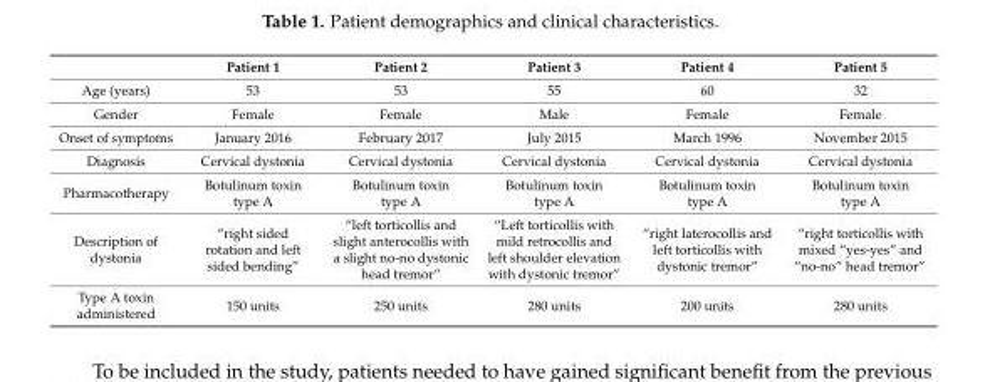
<table><thead><tr><td></td><td>Patient 1</td><td>Patient 2</td><td>Patient 3</td><td>Patient 4</td><td>Patient 5</td></tr></thead><tbody><tr><td>Age (years)</td><td>53</td><td>53</td><td>55</td><td>60</td><td>32</td></tr><tr><td>Gender</td><td>Female</td><td>Female</td><td>Male</td><td>Female</td><td>Female</td></tr><tr><td>Onset of symptoms</td><td>January 2016</td><td>February 2017</td><td>July 2015</td><td>March 1996</td><td>November 2015</td></tr><tr><td>Diagnosis</td><td>Cervical dystonia</td><td>Cervical dystonia</td><td>Cervical dystonia</td><td>Cervical dystonia</td><td>Cervical dystonia</td></tr><tr><td>Pharmacotherapy</td><td>Botulinum toxin type A</td><td>Botulinum toxin type A</td><td>Botulinum toxin type A</td><td>Botulinum toxin type A</td><td>Botulinum toxin type A</td></tr><tr><td>Description of dystonia</td><td>“right sided rotation and left sided bending”</td><td>“left torticollis and slight anterocollis with a slight no-no dystonic head tremor”</td><td>“Left torticollis with mild retrocollis and left shoulder elevation with dystonic tremor”</td><td>“right laterocollis and left torticollis with dystonic tremor”</td><td>“right torticollis with mixed “yes-yes” and “no-no” head tremor”</td></tr><tr><td>Type A toxin administered</td><td>150 units</td><td>250 units</td><td>280 units</td><td>200 units</td><td>280 units</td></tr></tbody></table>